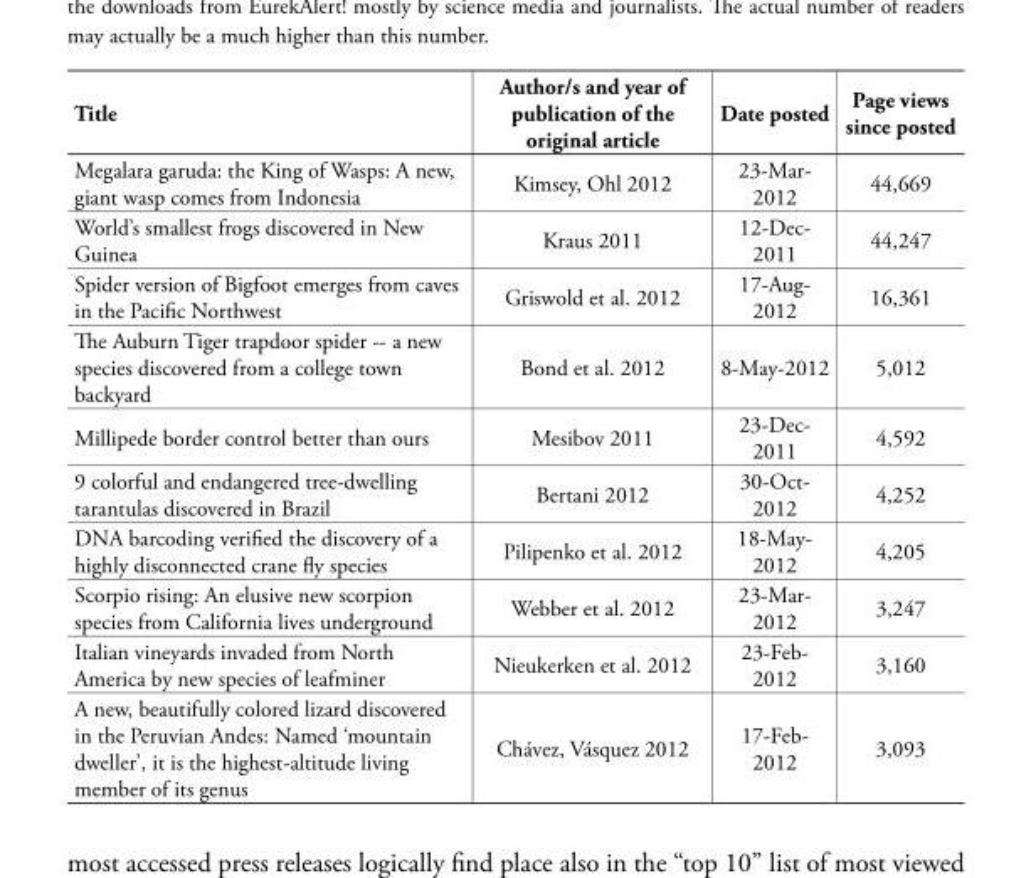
<table><thead><tr><td>Title</td><td>Author/s and year of publication of the original article</td><td>Date posted</td><td>Page views since posted</td></tr></thead><tbody><tr><td>Megalara garuda: the King of Wasps: A new, giant wasp comes from Indonesia</td><td>Kimsey, Ohl 2012</td><td>23-Mar- 2012</td><td>44,669</td></tr><tr><td>World’s smallest frogs discovered in New Guinea</td><td>Kraus 2011</td><td>12-Dec- 2011</td><td>44,247</td></tr><tr><td>Spider version of Bigfoot emerges from caves in the Pacific Northwest</td><td>Griswold et al. 2012</td><td>17-Aug- 2012</td><td>16,361</td></tr><tr><td>The Auburn Tiger trapdoor spider -- a new species discovered from a college town backyard</td><td>Bond et al. 2012</td><td>8-May-2012</td><td>5,012</td></tr><tr><td>Millipede border control better than ours</td><td>Mesibov 2011</td><td>23-Dec- 2011</td><td>4,592</td></tr><tr><td>9 colorful and endangered tree-dwelling tarantulas discovered in Brazil</td><td>Bertani 2012</td><td>30-Oct- 2012</td><td>4,252</td></tr><tr><td>DNA barcoding verified the discovery of a highly disconnected crane fly species</td><td>Pilipenko et al. 2012</td><td>18-May- 2012</td><td>4,205</td></tr><tr><td>Scorpio rising: An elusive new scorpion species from California lives underground</td><td>Webber et al. 2012</td><td>23-Mar- 2012</td><td>3,247</td></tr><tr><td>Italian vineyards invaded from North America by new species of leafminer</td><td>Nieukerken et al. 2012</td><td>23-Feb- 2012</td><td>3,160</td></tr><tr><td>A new, beautifully colored lizard discovered in the Peruvian Andes: Named ‘mountain dweller’, it is the highest-altitude living member of its genus</td><td>Chávez, Vásquez 2012</td><td>17-Feb- 2012</td><td>3,093</td></tr></tbody></table>